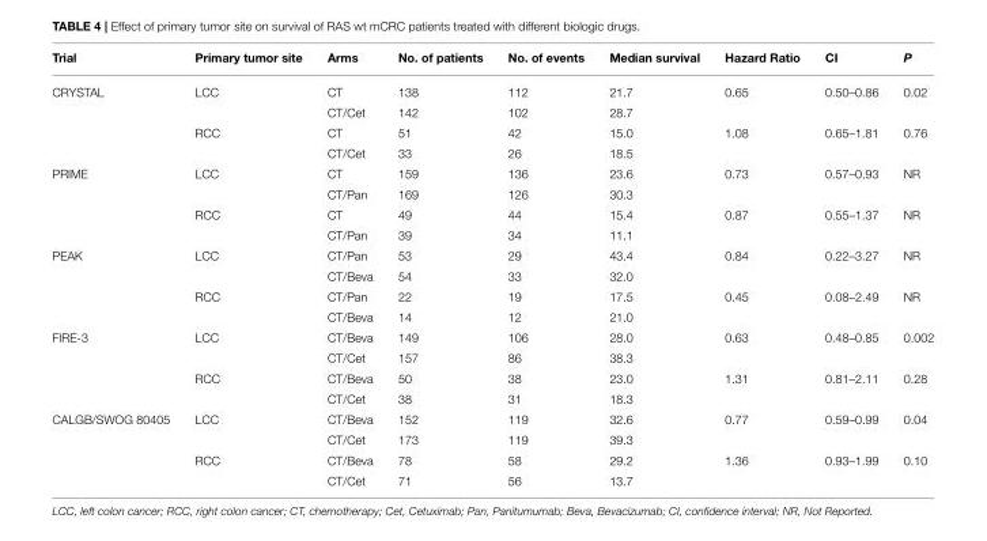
<table><thead><tr><td>Trial</td><td>Primary tumor site</td><td>Arms</td><td>No. of patients</td><td>No. of events</td><td>Median survival</td><td>Hazard Ratio</td><td>CI</td><td>P</td></tr></thead><tbody><tr><td rowspan="4">CRYSTAL</td><td>LCC</td><td>CT</td><td>138</td><td>112</td><td>21.7</td><td>0.65</td><td>0.50–0.86</td><td>0.02</td></tr><tr><td></td><td>CT/Cet</td><td>142</td><td>102</td><td>28.7</td><td></td><td></td><td></td></tr><tr><td>RCC</td><td>CT</td><td>51</td><td>42</td><td>15.0</td><td>1.08</td><td>0.65–1.81</td><td>0.76</td></tr><tr><td></td><td>CT/Cet</td><td>33</td><td>26</td><td>18.5</td><td></td><td></td><td></td></tr><tr><td rowspan="4">PRIME</td><td>LCC</td><td>CT</td><td>159</td><td>136</td><td>23.6</td><td>0.73</td><td>0.57–0.93</td><td>NR</td></tr><tr><td></td><td>CT/Pan</td><td>169</td><td>126</td><td>30.3</td><td></td><td></td><td></td></tr><tr><td>RCC</td><td>CT</td><td>49</td><td>44</td><td>15.4</td><td>0.87</td><td>0.55–1.37</td><td>NR</td></tr><tr><td></td><td>CT/Pan</td><td>39</td><td>34</td><td>11.1</td><td></td><td></td><td></td></tr><tr><td rowspan="4">PEAK</td><td>LCC</td><td>CT/Pan</td><td>53</td><td>29</td><td>43.4</td><td>0.84</td><td>0.22–3.27</td><td>NR</td></tr><tr><td></td><td>CT/Beva</td><td>54</td><td>33</td><td>32.0</td><td></td><td></td><td></td></tr><tr><td>RCC</td><td>CT/Pan</td><td>22</td><td>19</td><td>17.5</td><td>0.45</td><td>0.08–2.49</td><td>NR</td></tr><tr><td></td><td>CT/Beva</td><td>14</td><td>12</td><td>21.0</td><td></td><td></td><td></td></tr><tr><td rowspan="4">FIRE-3</td><td>LCC</td><td>CT/Beva</td><td>149</td><td>106</td><td>28.0</td><td>0.63</td><td>0.48–0.85</td><td>0.002</td></tr><tr><td></td><td>CT/Cet</td><td>157</td><td>86</td><td>38.3</td><td></td><td></td><td></td></tr><tr><td>RCC</td><td>CT/Beva</td><td>50</td><td>38</td><td>23.0</td><td>1.31</td><td>0.81–2.11</td><td>0.28</td></tr><tr><td></td><td>CT/Cet</td><td>38</td><td>31</td><td>18.3</td><td></td><td></td><td></td></tr><tr><td rowspan="4">CALGB/SWOG 80405</td><td>LCC</td><td>CT/Beva</td><td>152</td><td>119</td><td>32.6</td><td>0.77</td><td>0.59–0.99</td><td>0.04</td></tr><tr><td></td><td>CT/Cet</td><td>173</td><td>119</td><td>39.3</td><td></td><td></td><td></td></tr><tr><td>RCC</td><td>CT/Beva</td><td>78</td><td>58</td><td>29.2</td><td>1.36</td><td>0.93–1.99</td><td>0.10</td></tr><tr><td></td><td>CT/Cet</td><td>71</td><td>56</td><td>13.7</td><td></td><td></td><td></td></tr></tbody></table>